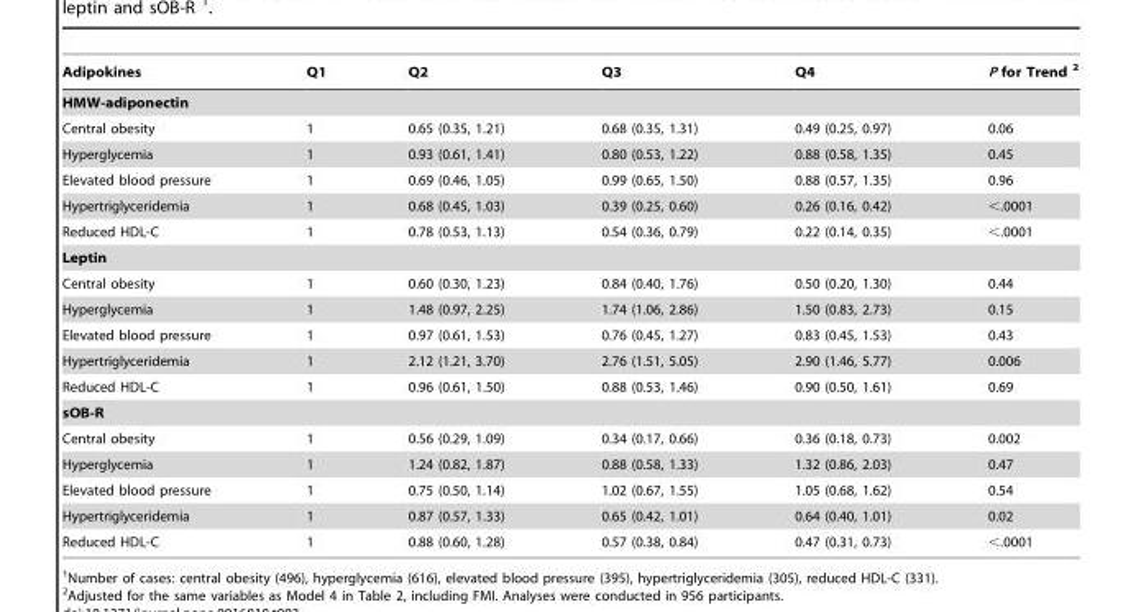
<table><thead><tr><td>Adipokines</td><td>Q1</td><td>Q2</td><td>Q3</td><td>Q4</td><td>P for Trend 2</td></tr></thead><tbody><tr><td colspan="6">HMW-adiponectin</td></tr><tr><td>Central obesity</td><td>1</td><td>0.65 (0.35, 1.21)</td><td>0.68 (0.35, 1.31)</td><td>0.49 (0.25, 0.97)</td><td>0.06</td></tr><tr><td>Hyperglycemia</td><td>1</td><td>0.93 (0.61, 1.41)</td><td>0.80 (0.53, 1.22)</td><td>0.88 (0.58, 1.35)</td><td>0.45</td></tr><tr><td>Elevated blood pressure</td><td>1</td><td>0.69 (0.46, 1.05)</td><td>0.99 (0.65, 1.50)</td><td>0.88 (0.57, 1.35)</td><td>0.96</td></tr><tr><td>Hypertriglyceridemia</td><td>1</td><td>0.68 (0.45, 1.03)</td><td>0.39 (0.25, 0.60)</td><td>0.26 (0.16, 0.42)</td><td>&lt;.0001</td></tr><tr><td>Reduced HDL-C</td><td>1</td><td>0.78 (0.53, 1.13)</td><td>0.54 (0.36, 0.79)</td><td>0.22 (0.14, 0.35)</td><td>&lt;.0001</td></tr><tr><td colspan="6">Leptin</td></tr><tr><td>Central obesity</td><td>1</td><td>0.60 (0.30, 1.23)</td><td>0.84 (0.40, 1.76)</td><td>0.50 (0.20, 1.30)</td><td>0.44</td></tr><tr><td>Hyperglycemia</td><td>1</td><td>1.48 (0.97, 2.25)</td><td>1.74 (1.06, 2.86)</td><td>1.50 (0.83, 2.73)</td><td>0.15</td></tr><tr><td>Elevated blood pressure</td><td>1</td><td>0.97 (0.61, 1.53)</td><td>0.76 (0.45, 1.27)</td><td>0.83 (0.45, 1.53)</td><td>0.43</td></tr><tr><td>Hypertriglyceridemia</td><td>1</td><td>2.12 (1.21, 3.70)</td><td>2.76 (1.51, 5.05)</td><td>2.90 (1.46, 5.77)</td><td>0.006</td></tr><tr><td>Reduced HDL-C</td><td>1</td><td>0.96 (0.61, 1.50)</td><td>0.88 (0.53, 1.46)</td><td>0.90 (0.50, 1.61)</td><td>0.69</td></tr><tr><td colspan="6">sOB-R</td></tr><tr><td>Central obesity</td><td>1</td><td>0.56 (0.29, 1.09)</td><td>0.34 (0.17, 0.66)</td><td>0.36 (0.18, 0.73)</td><td>0.002</td></tr><tr><td>Hyperglycemia</td><td>1</td><td>1.24 (0.82, 1.87)</td><td>0.88 (0.58, 1.33)</td><td>1.32 (0.86, 2.03)</td><td>0.47</td></tr><tr><td>Elevated blood pressure</td><td>1</td><td>0.75 (0.50, 1.14)</td><td>1.02 (0.67, 1.55)</td><td>1.05 (0.68, 1.62)</td><td>0.54</td></tr><tr><td>Hypertriglyceridemia</td><td>1</td><td>0.87 (0.57, 1.33)</td><td>0.65 (0.42, 1.01)</td><td>0.64 (0.40, 1.01)</td><td>0.02</td></tr><tr><td>Reduced HDL-C</td><td>1</td><td>0.88 (0.60, 1.28)</td><td>0.57 (0.38, 0.84)</td><td>0.47 (0.31, 0.73)</td><td>&lt;.0001</td></tr></tbody></table>